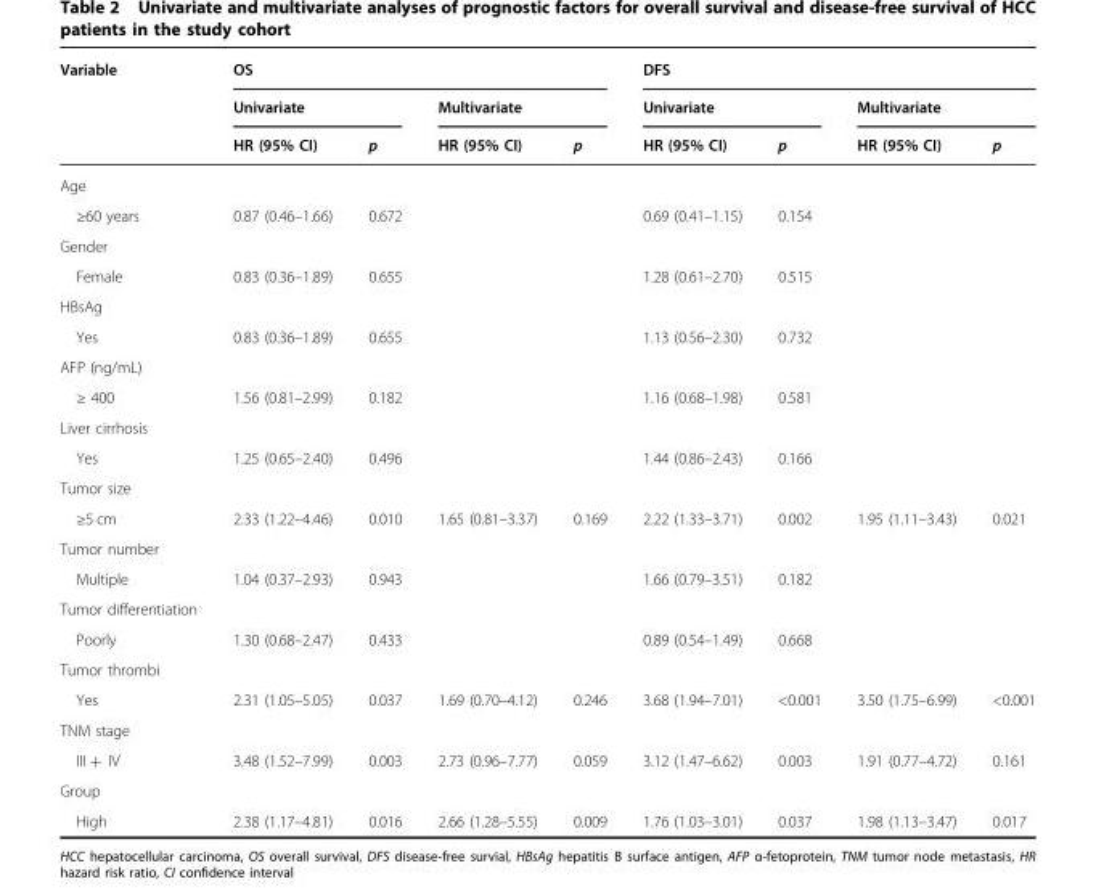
<table><thead><tr><td rowspan="3">Variable</td><td colspan="4">OS</td><td colspan="4">DFS</td></tr><tr><td colspan="2">Univariate</td><td colspan="2">Multivariate</td><td colspan="2">Univariate</td><td colspan="2">Multivariate</td></tr><tr><td>HR (95% CI)</td><td>p</td><td>HR (95% CI)</td><td>p</td><td>HR (95% CI)</td><td>p</td><td>HR (95% CI)</td><td>p</td></tr></thead><tbody><tr><td colspan="9">Age</td></tr><tr><td>≥60 years</td><td>0.87 (0.46–1.66)</td><td>0.672</td><td></td><td></td><td>0.69 (0.41–1.15)</td><td>0.154</td><td></td><td></td></tr><tr><td colspan="9">Gender</td></tr><tr><td>Female</td><td>0.83 (0.36–1.89)</td><td>0.655</td><td></td><td></td><td>1.28 (0.61–2.70)</td><td>0.515</td><td></td><td></td></tr><tr><td colspan="9">HBsAg</td></tr><tr><td>Yes</td><td>0.83 (0.36–1.89)</td><td>0.655</td><td></td><td></td><td>1.13 (0.56–2.30)</td><td>0.732</td><td></td><td></td></tr><tr><td colspan="9">AFP (ng/mL)</td></tr><tr><td>≥ 400</td><td>1.56 (0.81–2.99)</td><td>0.182</td><td></td><td></td><td>1.16 (0.68–1.98)</td><td>0.581</td><td></td><td></td></tr><tr><td colspan="9">Liver cirrhosis</td></tr><tr><td>Yes</td><td>1.25 (0.65–2.40)</td><td>0.496</td><td></td><td></td><td>1.44 (0.86–2.43)</td><td>0.166</td><td></td><td></td></tr><tr><td colspan="9">Tumor size</td></tr><tr><td>≥5 cm</td><td>2.33 (1.22–4.46)</td><td>0.010</td><td>1.65 (0.81–3.37)</td><td>0.169</td><td>2.22 (1.33–3.71)</td><td>0.002</td><td>1.95 (1.11–3.43)</td><td>0.021</td></tr><tr><td colspan="9">Tumor number</td></tr><tr><td>Multiple</td><td>1.04 (0.37–2.93)</td><td>0.943</td><td></td><td></td><td>1.66 (0.79–3.51)</td><td>0.182</td><td></td><td></td></tr><tr><td colspan="9">Tumor differentiation</td></tr><tr><td>Poorly</td><td>1.30 (0.68–2.47)</td><td>0.433</td><td></td><td></td><td>0.89 (0.54–1.49)</td><td>0.668</td><td></td><td></td></tr><tr><td colspan="9">Tumor thrombi</td></tr><tr><td>Yes</td><td>2.31 (1.05–5.05)</td><td>0.037</td><td>1.69 (0.70–4.12)</td><td>0.246</td><td>3.68 (1.94–7.01)</td><td>&lt;0.001</td><td>3.50 (1.75–6.99)</td><td>&lt;0.001</td></tr><tr><td colspan="9">TNM stage</td></tr><tr><td>III + IV</td><td>3.48 (1.52–7.99)</td><td>0.003</td><td>2.73 (0.96–7.77)</td><td>0.059</td><td>3.12 (1.47–6.62)</td><td>0.003</td><td>1.91 (0.77–4.72)</td><td>0.161</td></tr><tr><td colspan="9">Group</td></tr><tr><td>High</td><td>2.38 (1.17–4.81)</td><td>0.016</td><td>2.66 (1.28–5.55)</td><td>0.009</td><td>1.76 (1.03–3.01)</td><td>0.037</td><td>1.98 (1.13–3.47)</td><td>0.017</td></tr></tbody></table>